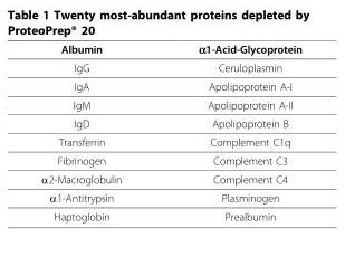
<table><thead><tr><td>Albumin</td><td>α1-Acid-Glycoprotein</td></tr></thead><tbody><tr><td>IgG</td><td>Ceruloplasmin</td></tr><tr><td>IgA</td><td>Apolipoprotein A-I</td></tr><tr><td>IgM</td><td>Apolipoprotein A-II</td></tr><tr><td>IgD</td><td>Apolipoprotein B</td></tr><tr><td>Transferrin</td><td>Complement C1q</td></tr><tr><td>Fibrinogen</td><td>Complement C3</td></tr><tr><td>α2-Macroglobulin</td><td>Complement C4</td></tr><tr><td>α1-Antitrypsin</td><td>Plasminogen</td></tr><tr><td>Haptoglobin</td><td>Prealbumin</td></tr></tbody></table>